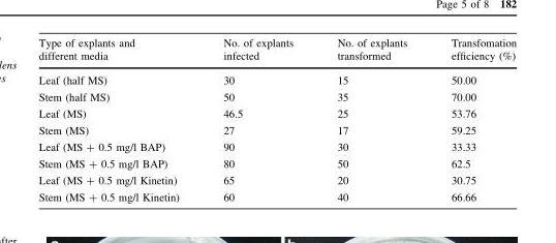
<table><thead><tr><td>Type of explants and different media</td><td>No. of explants infected</td><td>No. of explants transformed</td><td>Transfomation efficiency (%)</td></tr></thead><tbody><tr><td>Leaf (half MS)</td><td>30</td><td>15</td><td>50.00</td></tr><tr><td>Stem (half MS)</td><td>50</td><td>35</td><td>70.00</td></tr><tr><td>Leaf (MS)</td><td>46.5</td><td>25</td><td>53.76</td></tr><tr><td>Stem (MS)</td><td>27</td><td>17</td><td>59.25</td></tr><tr><td>Leaf (MS + 0.5 mg/l BAP)</td><td>90</td><td>30</td><td>33.33</td></tr><tr><td>Stem (MS + 0.5 mg/l BAP)</td><td>80</td><td>50</td><td>62.5</td></tr><tr><td>Leaf (MS + 0.5 mg/l Kinetin)</td><td>65</td><td>20</td><td>30.75</td></tr><tr><td>Stem (MS + 0.5 mg/l Kinetin)</td><td>60</td><td>40</td><td>66.66</td></tr></tbody></table>